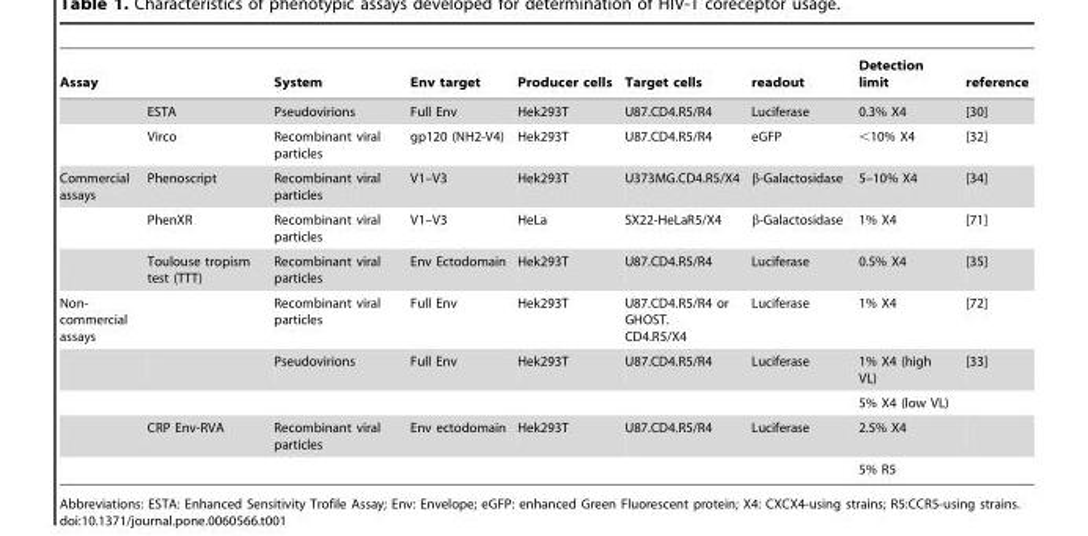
<table><thead><tr><td colspan="2">Assay</td><td rowspan="2">System Pseudovirions</td><td rowspan="2">Env target Full Env</td><td rowspan="2">Producer cells Hek293T</td><td rowspan="2">Target cells U87.CD4.R5/R4</td><td rowspan="2">readout Luciferase</td><td rowspan="2">Detection limit 0.3% X4</td><td rowspan="2">reference [30]</td></tr><tr><td></td><td>ESTA</td></tr></thead><tbody><tr><td></td><td>Virco</td><td>Recombinant viral particles</td><td>gp120 (NH2-V4)</td><td>Hek293T</td><td>U87.CD4.R5/R4</td><td>eGFP</td><td>&lt;10% X4</td><td>[32]</td></tr><tr><td rowspan="3">Commercial assays</td><td>Phenoscript</td><td>Recombinant viral particles</td><td>V1–V3</td><td>Hek293T</td><td>U373MG.CD4.R5/X4</td><td>β-Galactosidase</td><td>5–10% X4</td><td>[34]</td></tr><tr><td>PhenXR</td><td>Recombinant viral particles</td><td>V1–V3</td><td>HeLa</td><td>SX22-HeLaR5/X4</td><td>β-Galactosidase</td><td>1% X4</td><td>[71]</td></tr><tr><td>Toulouse tropism test (TTT)</td><td>Recombinant viral particles</td><td>Env Ectodomain</td><td>Hek293T</td><td>U87.CD4.R5/R4</td><td>Luciferase</td><td>0.5% X4</td><td>[35]</td></tr><tr><td rowspan="5">Non- commercial assays</td><td></td><td>Recombinant viral particles</td><td>Full Env</td><td>Hek293T</td><td>U87.CD4.R5/R4 or GHOST. CD4.R5/X4</td><td>Luciferase</td><td>1% X4</td><td>[72]</td></tr><tr><td></td><td>Pseudovirions</td><td>Full Env</td><td>Hek293T</td><td>U87.CD4.R5/R4</td><td>Luciferase</td><td>1% X4 (high VL)</td><td>[33]</td></tr><tr><td></td><td></td><td></td><td></td><td></td><td></td><td>5% X4 (low VL)</td><td></td></tr><tr><td>CRP Env-RVA</td><td>Recombinant viral particles</td><td>Env ectodomain</td><td>Hek293T</td><td>U87.CD4.R5/R4</td><td>Luciferase</td><td>2.5% X4</td><td></td></tr><tr><td></td><td></td><td></td><td></td><td></td><td></td><td>5% R5</td><td></td></tr></tbody></table>